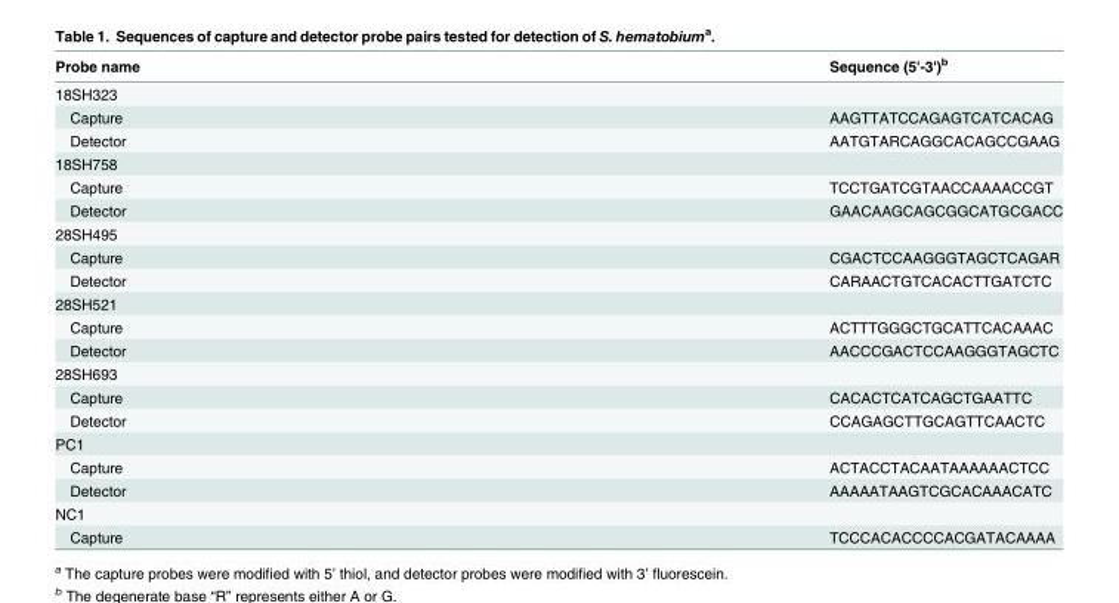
<table><thead><tr><td>Probe name</td><td>Sequence (5&#x27;-3&#x27;)<sup>b</sup></td></tr></thead><tbody><tr><td colspan="2">18SH323</td></tr><tr><td>Capture</td><td>AAGTTATCCAGAGTCATCACAG</td></tr><tr><td>Detector</td><td>AATGTARCAGGCACAGCCGAAG</td></tr><tr><td colspan="2">18SH758</td></tr><tr><td>Capture</td><td>TCCTGATCGTAACCAAAACCGT</td></tr><tr><td>Detector</td><td>GAACAAGCAGCGGCATGCGACC</td></tr><tr><td colspan="2">28SH495</td></tr><tr><td>Capture</td><td>CGACTCCAAGGGTAGCTCAGAR</td></tr><tr><td>Detector</td><td>CARAACTGTCACACTTGATCTC</td></tr><tr><td colspan="2">28SH521</td></tr><tr><td>Capture</td><td>ACTTTGGGCTGCATTCACAAAC</td></tr><tr><td>Detector</td><td>AACCCGACTCCAAGGGTAGCTC</td></tr><tr><td colspan="2">28SH693</td></tr><tr><td>Capture</td><td>CACACTCATCAGCTGAATTC</td></tr><tr><td>Detector</td><td>CCAGAGCTTGCAGTTCAACTC</td></tr><tr><td colspan="2">PC1</td></tr><tr><td>Capture</td><td>ACTACCTACAATAAAAAACTCC</td></tr><tr><td>Detector</td><td>AAAAATAAGTCGCACAAACATC</td></tr><tr><td colspan="2">NC1</td></tr><tr><td>Capture</td><td>TCCCACACCCCACGATACAAAA</td></tr></tbody></table>